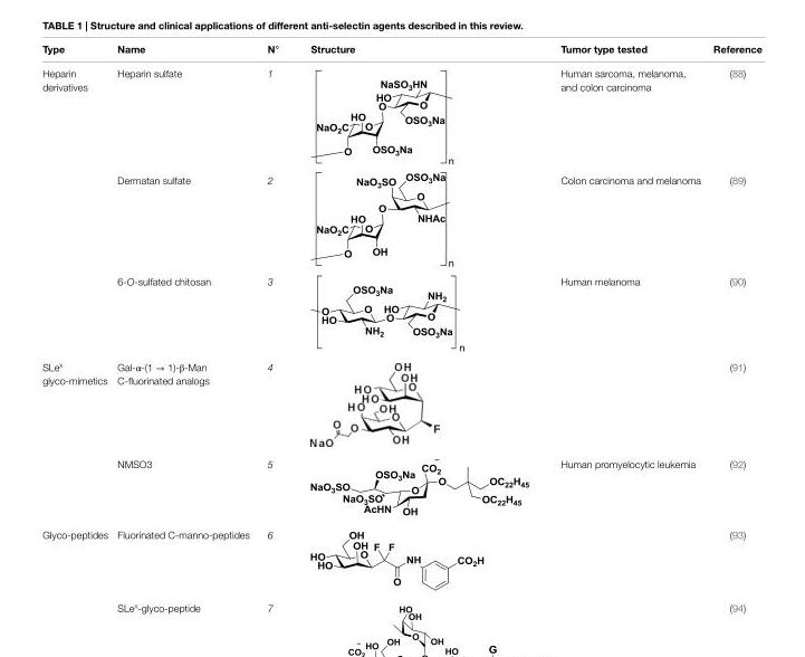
<table><thead><tr><td>Type</td><td>Name</td><td>N°</td><td>Structure</td><td>Tumor type tested</td><td>Reference</td></tr></thead><tbody><tr><td rowspan="3">Heparin derivatives</td><td>Heparin sulfate</td><td>1</td><td></td><td>Human sarcoma, melanoma, and colon carcinoma</td><td>(88)</td></tr><tr><td>Dermatan sulfate</td><td>2</td><td></td><td>Colon carcinoma and melanoma</td><td>(89)</td></tr><tr><td>6-O-sulfated chitosan</td><td>3</td><td></td><td>Human melanoma</td><td>(90)</td></tr><tr><td rowspan="2">SLe<sup>X</sup> glyco-mimetics</td><td>Gal-α-(1 → 1)-β-Man C-fluorinated analogs</td><td>4</td><td></td><td></td><td>(91)</td></tr><tr><td>NMSO3</td><td>5</td><td></td><td>Human promyelocytic leukemia</td><td>(92)</td></tr><tr><td rowspan="2">Glyco-peptides</td><td>Fluorinated C-manno-peptides</td><td>6</td><td></td><td></td><td>(93)</td></tr><tr><td>SLe<sup>X</sup>-glyco-peptide</td><td>7</td><td></td><td></td><td>(94)</td></tr></tbody></table>